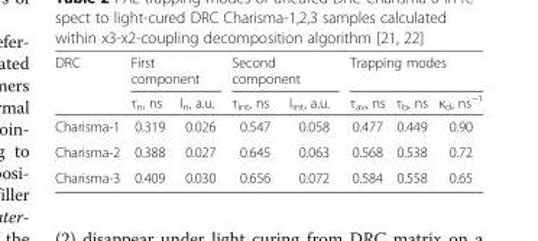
<table><thead><tr><td rowspan="2">DRC</td><td colspan="2">First component</td><td colspan="2">Second component</td><td colspan="3">Trapping modes</td></tr><tr><td>τ<sub>n</sub>, ns</td><td>I<sub>n</sub>, a.u.</td><td>τ<sub>int</sub>, ns</td><td>I<sub>int</sub>, a.u.</td><td>τ<sub>av</sub>, ns</td><td>τ<sub>b</sub>, ns</td><td>κ<sub>d</sub>, ns<sup>−1</sup></td></tr></thead><tbody><tr><td>Charisma-1</td><td>0.319</td><td>0.026</td><td>0.547</td><td>0.058</td><td>0.477</td><td>0.449</td><td>0.90</td></tr><tr><td>Charisma-2</td><td>0.388</td><td>0.027</td><td>0.645</td><td>0.063</td><td>0.568</td><td>0.538</td><td>0.72</td></tr><tr><td>Charisma-3</td><td>0.409</td><td>0.030</td><td>0.656</td><td>0.072</td><td>0.584</td><td>0.558</td><td>0.65</td></tr></tbody></table>